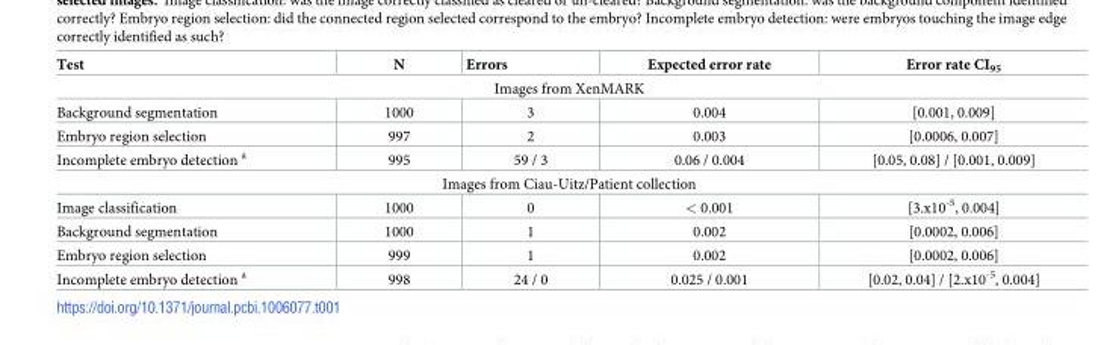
<table><thead><tr><td>Test</td><td>N</td><td>Errors</td><td>Expected error rate</td><td>Error rate CI<sub>95</sub></td></tr></thead><tbody><tr><td colspan="5">Images from XenMARK</td></tr><tr><td>Background segmentation</td><td>1000</td><td>3</td><td>0.004</td><td>[0.001, 0.009]</td></tr><tr><td>Embryo region selection</td><td>997</td><td>2</td><td>0.003</td><td>[0.0006, 0.007]</td></tr><tr><td>Incomplete embryo detection <sup>a</sup></td><td>995</td><td>59 / 3</td><td>0.06 / 0.004</td><td>[0.05, 0.08] / [0.001, 0.009]</td></tr><tr><td colspan="5">Images from Ciau-Uitz/Patient collection</td></tr><tr><td>Image classification</td><td>1000</td><td>0</td><td>&lt; 0.001</td><td>[3.x10<sup>-5</sup>, 0.004]</td></tr><tr><td>Background segmentation</td><td>1000</td><td>1</td><td>0.002</td><td>[0.0002, 0.006]</td></tr><tr><td>Embryo region selection</td><td>999</td><td>1</td><td>0.002</td><td>[0.0002, 0.006]</td></tr><tr><td>Incomplete embryo detection <sup>a</sup></td><td>998</td><td>24 / 0</td><td>0.025 / 0.001</td><td>[0.02, 0.04] / [2.x10<sup>-5</sup>, 0.004]</td></tr></tbody></table>